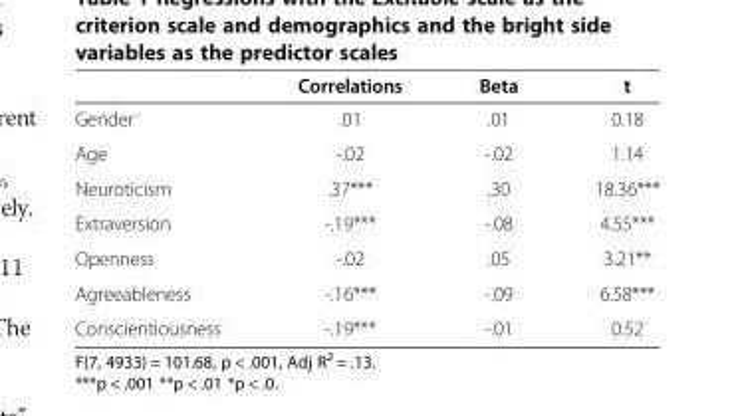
<table><thead><tr><td></td><td>Correlations</td><td>Beta</td><td>t</td></tr></thead><tbody><tr><td>Gender</td><td>.01</td><td>.01</td><td>0.18</td></tr><tr><td>Age</td><td>-.02</td><td>-.02</td><td>1.14</td></tr><tr><td>Neuroticism</td><td>.37***</td><td>.30</td><td>18.36***</td></tr><tr><td>Extraversion</td><td>-.19***</td><td>-.08</td><td>4.55***</td></tr><tr><td>Openness</td><td>-.02</td><td>.05</td><td>3.21**</td></tr><tr><td>Agreeableness</td><td>-.16***</td><td>-.09</td><td>6.58***</td></tr><tr><td>Conscientiousness</td><td>-.19***</td><td>-.01</td><td>0.52</td></tr></tbody></table>